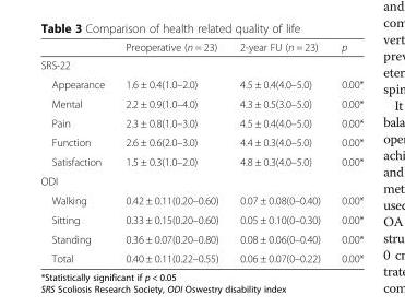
<table><thead><tr><td></td><td>Preoperative (n = 23)</td><td>2-year FU (n = 23)</td><td>p</td></tr></thead><tbody><tr><td colspan="4">SRS-22</td></tr><tr><td>Appearance</td><td>1.6 ± 0.4(1.0–2.0)</td><td>4.5 ± 0.4(4.0–5.0)</td><td>0.00*</td></tr><tr><td>Mental</td><td>2.2 ± 0.9(1.0–4.0)</td><td>4.3 ± 0.5(3.0–5.0)</td><td>0.00*</td></tr><tr><td>Pain</td><td>2.3 ± 0.8(1.0–3.0)</td><td>4.5 ± 0.4(4.0–5.0)</td><td>0.00*</td></tr><tr><td>Function</td><td>2.6 ± 0.6(2.0–3.0)</td><td>4.4 ± 0.3(4.0–5.0)</td><td>0.00*</td></tr><tr><td>Satisfaction</td><td>1.5 ± 0.3(1.0–2.0)</td><td>4.8 ± 0.3(4.0–5.0)</td><td>0.00*</td></tr><tr><td colspan="4">ODI</td></tr><tr><td>Walking</td><td>0.42 ± 0.11(0.20–0.60)</td><td>0.07 ± 0.08(0–0.40)</td><td>0.00*</td></tr><tr><td>Sitting</td><td>0.33 ± 0.15(0.20–0.60)</td><td>0.05 ± 0.10(0–0.30)</td><td>0.00*</td></tr><tr><td>Standing</td><td>0.36 ± 0.07(0.20–0.80)</td><td>0.08 ± 0.06(0–0.40)</td><td>0.00*</td></tr><tr><td>Total</td><td>0.40 ± 0.11(0.22–0.55)</td><td>0.06 ± 0.07(0–0.22)</td><td>0.00*</td></tr></tbody></table>